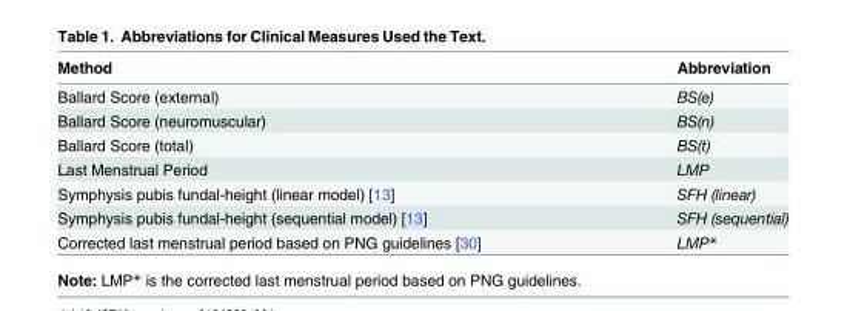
<table><thead><tr><td>Method</td><td>Abbreviation</td></tr></thead><tbody><tr><td>Ballard Score (external)</td><td>BS(e)</td></tr><tr><td>Ballard Score (neuromuscular)</td><td>BS(n)</td></tr><tr><td>Ballard Score (total)</td><td>BS(t)</td></tr><tr><td>Last Menstrual Period</td><td>LMP</td></tr><tr><td>Symphysis pubis fundal-height (linear model) [13]</td><td>SFH (linear)</td></tr><tr><td>Symphysis pubis fundal-height (sequential model) [13]</td><td>SFH (sequential)</td></tr><tr><td>Corrected last menstrual period based on PNG guidelines [30]</td><td>LMP*</td></tr></tbody></table>